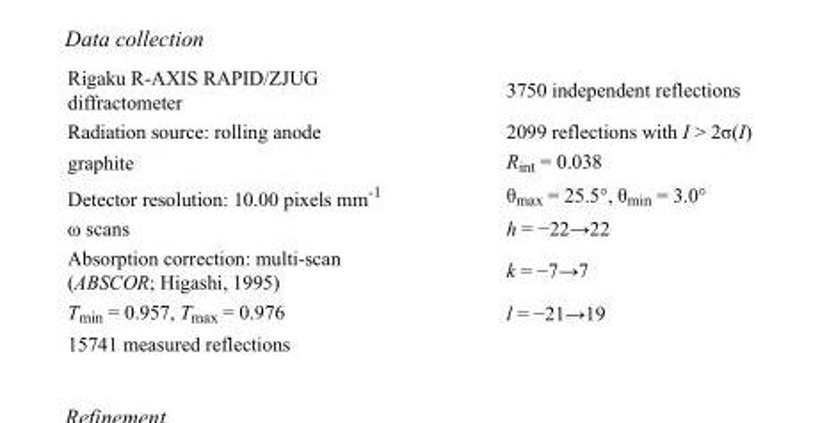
<table><tbody><tr><td>Rigaku R-AXIS RAPID/ZJUG diffractometer</td><td>3750 independent reflections</td></tr><tr><td>Radiation source: rolling anode</td><td>2099 reflections with I &gt; 2σ(I)</td></tr><tr><td>graphite</td><td>R<sub>int</sub> = 0.038</td></tr><tr><td>Detector resolution: 10.00 pixels mm<sup>-1</sup></td><td>θ<sub>max</sub> = 25.5°, θ<sub>min</sub> = 3.0°</td></tr><tr><td>ω scans</td><td>h = −22→22</td></tr><tr><td>Absorption correction: multi-scan (ABSCOR; Higashi, 1995)</td><td>k = −7→7</td></tr><tr><td>T<sub>min</sub> = 0.957, T<sub>max</sub> = 0.976</td><td>l = −21→19</td></tr><tr><td>15741 measured reflections</td><td></td></tr></tbody></table>